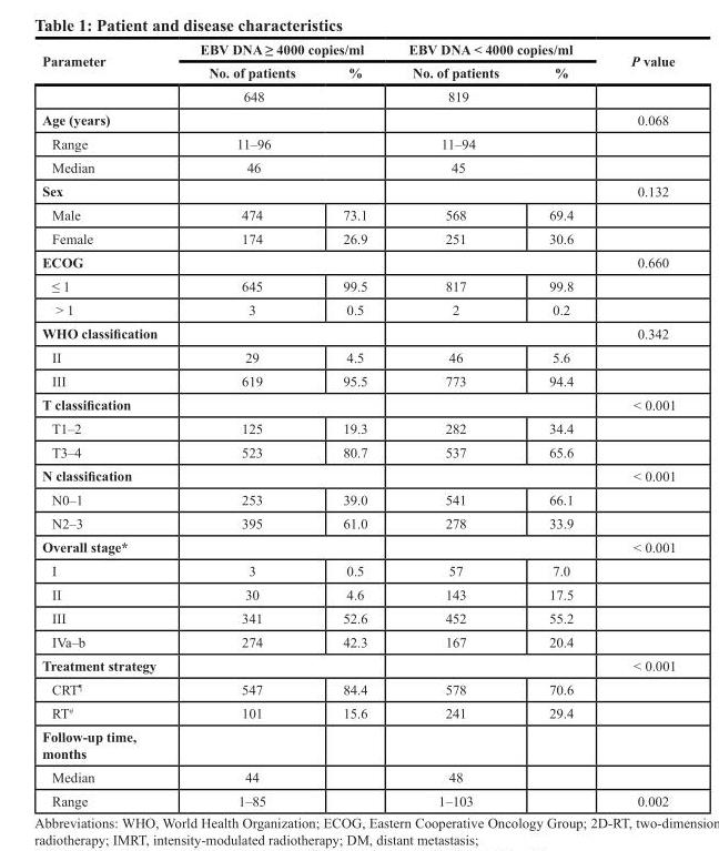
<table><thead><tr><td rowspan="2">Parameter</td><td colspan="2">EBV DNA ≥ 4000 copies/ml</td><td colspan="2">EBV DNA &lt; 4000 copies/ml</td><td rowspan="2">P value</td></tr><tr><td>No. of patients</td><td>%</td><td>No. of patients</td><td>%</td></tr></thead><tbody><tr><td></td><td>648</td><td></td><td>819</td><td></td><td></td></tr><tr><td>Age (years)</td><td colspan="2"></td><td colspan="2"></td><td>0.068</td></tr><tr><td>Range</td><td>11–96</td><td></td><td>11–94</td><td></td><td></td></tr><tr><td>Median</td><td>46</td><td></td><td>45</td><td></td><td></td></tr><tr><td>Sex</td><td colspan="2"></td><td colspan="2"></td><td>0.132</td></tr><tr><td>Male</td><td>474</td><td>73.1</td><td>568</td><td>69.4</td><td></td></tr><tr><td>Female</td><td>174</td><td>26.9</td><td>251</td><td>30.6</td><td></td></tr><tr><td>ECOG</td><td colspan="2"></td><td colspan="2"></td><td>0.660</td></tr><tr><td>≤ 1</td><td>645</td><td>99.5</td><td>817</td><td>99.8</td><td></td></tr><tr><td>&gt; 1</td><td>3</td><td>0.5</td><td>2</td><td>0.2</td><td></td></tr><tr><td>WHO classification</td><td colspan="2"></td><td colspan="2"></td><td>0.342</td></tr><tr><td>II</td><td>29</td><td>4.5</td><td>46</td><td>5.6</td><td></td></tr><tr><td>III</td><td>619</td><td>95.5</td><td>773</td><td>94.4</td><td></td></tr><tr><td>T classification</td><td colspan="2"></td><td colspan="2"></td><td>&lt; 0.001</td></tr><tr><td>T1–2</td><td>125</td><td>19.3</td><td>282</td><td>34.4</td><td></td></tr><tr><td>T3–4</td><td>523</td><td>80.7</td><td>537</td><td>65.6</td><td></td></tr><tr><td>N classification</td><td colspan="2"></td><td colspan="2"></td><td>&lt; 0.001</td></tr><tr><td>N0–1</td><td>253</td><td>39.0</td><td>541</td><td>66.1</td><td></td></tr><tr><td>N2–3</td><td>395</td><td>61.0</td><td>278</td><td>33.9</td><td></td></tr><tr><td>Overall stage*</td><td colspan="2"></td><td colspan="2"></td><td>&lt; 0.001</td></tr><tr><td>I</td><td>3</td><td>0.5</td><td>57</td><td>7.0</td><td></td></tr><tr><td>II</td><td>30</td><td>4.6</td><td>143</td><td>17.5</td><td></td></tr><tr><td>III</td><td>341</td><td>52.6</td><td>452</td><td>55.2</td><td></td></tr><tr><td>IVa–b</td><td>274</td><td>42.3</td><td>167</td><td>20.4</td><td></td></tr><tr><td>Treatment strategy</td><td colspan="2"></td><td colspan="2"></td><td>&lt; 0.001</td></tr><tr><td>CRT<sup>¶</sup></td><td>547</td><td>84.4</td><td>578</td><td>70.6</td><td></td></tr><tr><td>RT<sup>#</sup></td><td>101</td><td>15.6</td><td>241</td><td>29.4</td><td></td></tr><tr><td colspan="6">Follow-up time, months</td></tr><tr><td>Median</td><td>44</td><td></td><td>48</td><td></td><td></td></tr><tr><td>Range</td><td>1–85</td><td></td><td>1–103</td><td></td><td>0.002</td></tr></tbody></table>